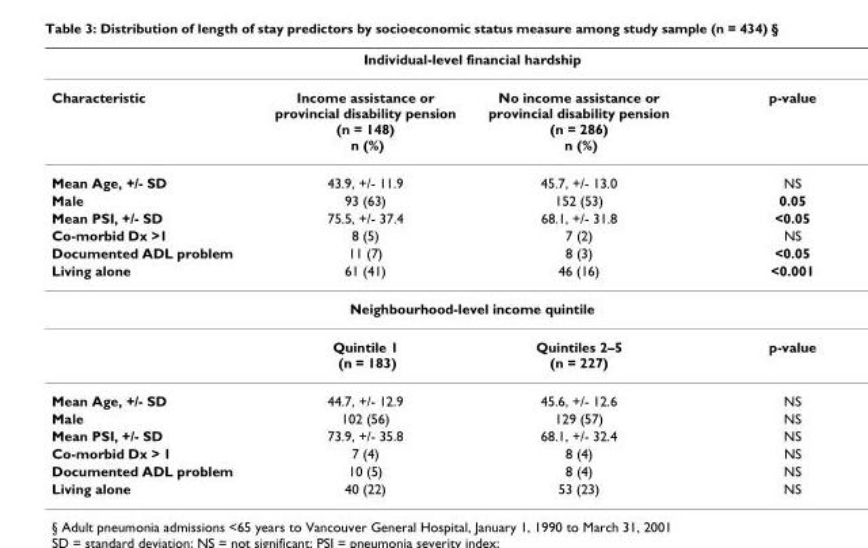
<table><thead><tr><td colspan="4">Individual-level financial hardship</td></tr><tr><td>Characteristic</td><td>Income assistance or provincial disability pension (n = 148) n (%)</td><td>No income assistance or provincial disability pension (n = 286) n (%)</td><td>p-value</td></tr></thead><tbody><tr><td>Mean Age, +/- SD</td><td>43.9, +/- 11.9</td><td>45.7, +/- 13.0</td><td>NS</td></tr><tr><td>Male</td><td>93 (63)</td><td>152 (53)</td><td>0.05</td></tr><tr><td>Mean PSI, +/- SD</td><td>75.5, +/- 37.4</td><td>68.1, +/- 31.8</td><td>&lt;0.05</td></tr><tr><td>Co-morbid Dx &gt;1</td><td>8 (5)</td><td>7 (2)</td><td>NS</td></tr><tr><td>Documented ADL problem</td><td>11 (7)</td><td>8 (3)</td><td>&lt;0.05</td></tr><tr><td>Living alone</td><td>61 (41)</td><td>46 (16)</td><td>&lt;0.001</td></tr><tr><td colspan="4">Neighbourhood-level income quintile</td></tr><tr><td></td><td>Quintile 1 (n = 183)</td><td>Quintiles 2–5 (n = 227)</td><td>p-value</td></tr><tr><td>Mean Age, +/- SD</td><td>44.7, +/- 12.9</td><td>45.6, +/- 12.6</td><td>NS</td></tr><tr><td>Male</td><td>102 (56)</td><td>129 (57)</td><td>NS</td></tr><tr><td>Mean PSI, +/- SD</td><td>73.9, +/- 35.8</td><td>68.1, +/- 32.4</td><td>NS</td></tr><tr><td>Co-morbid Dx &gt; 1</td><td>7 (4)</td><td>8 (4)</td><td>NS</td></tr><tr><td>Documented ADL problem</td><td>10 (5)</td><td>8 (4)</td><td>NS</td></tr><tr><td>Living alone</td><td>40 (22)</td><td>53 (23)</td><td>NS</td></tr></tbody></table>